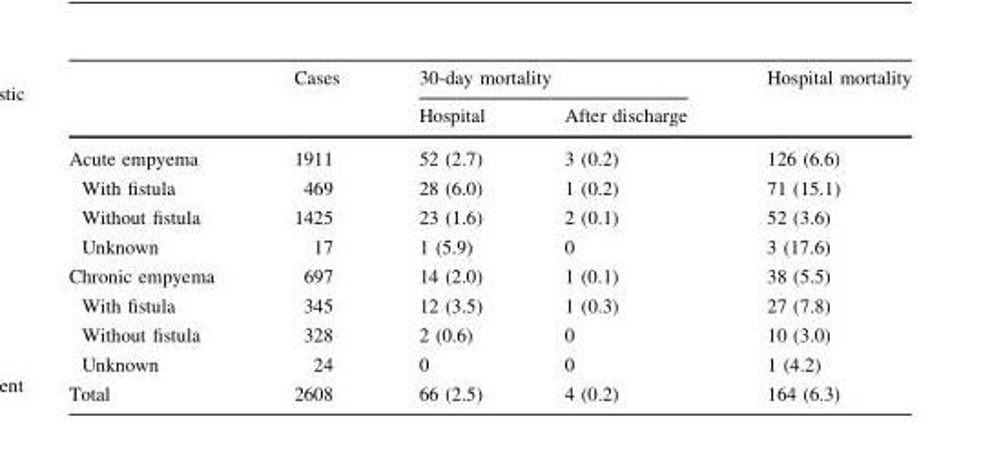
<table><thead><tr><td rowspan="2"></td><td rowspan="2">Cases</td><td colspan="2">30-day mortality</td><td rowspan="2">Hospital mortality</td></tr><tr><td>Hospital</td><td>After discharge</td></tr></thead><tbody><tr><td>Acute empyema</td><td>1911</td><td>52 (2.7)</td><td>3 (0.2)</td><td>126 (6.6)</td></tr><tr><td>With fistula</td><td>469</td><td>28 (6.0)</td><td>1 (0.2)</td><td>71 (15.1)</td></tr><tr><td>Without fistula</td><td>1425</td><td>23 (1.6)</td><td>2 (0.1)</td><td>52 (3.6)</td></tr><tr><td>Unknown</td><td>17</td><td>1 (5.9)</td><td>0</td><td>3 (17.6)</td></tr><tr><td>Chronic empyema</td><td>697</td><td>14 (2.0)</td><td>1 (0.1)</td><td>38 (5.5)</td></tr><tr><td>With fistula</td><td>345</td><td>12 (3.5)</td><td>1 (0.3)</td><td>27 (7.8)</td></tr><tr><td>Without fistula</td><td>328</td><td>2 (0.6)</td><td>0</td><td>10 (3.0)</td></tr><tr><td>Unknown</td><td>24</td><td>0</td><td>0</td><td>1 (4.2)</td></tr><tr><td>Total</td><td>2608</td><td>66 (2.5)</td><td>4 (0.2)</td><td>164 (6.3)</td></tr></tbody></table>